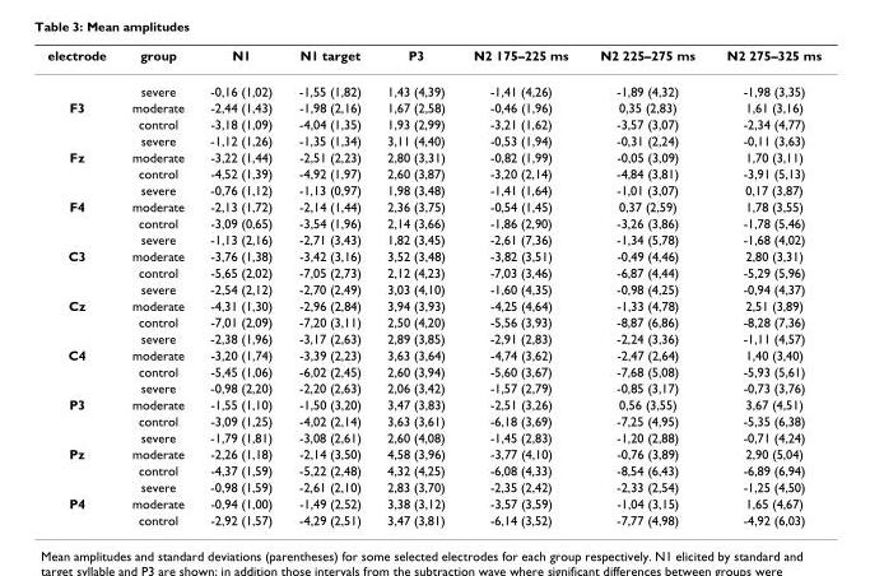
<table><thead><tr><td>electrode</td><td>group</td><td>N1</td><td>N1 target</td><td>P3</td><td>N2 175–225 ms</td><td>N2 225–275 ms</td><td>N2 275–325 ms</td></tr></thead><tbody><tr><td></td><td>severe</td><td>-0,16 (1,02)</td><td>-1,55 (1,82)</td><td>1,43 (4,39)</td><td>-1,41 (4,26)</td><td>-1,89 (4,32)</td><td>-1,98 (3,35)</td></tr><tr><td rowspan="3">F3</td><td>moderate</td><td>-2,44 (1,43)</td><td>-1,98 (2,16)</td><td>1,67 (2,58)</td><td>-0,46 (1,96)</td><td>0,35 (2,83)</td><td>1,61 (3,16)</td></tr><tr><td>control</td><td>-3,18 (1,09)</td><td>-4,04 (1,35)</td><td>1,93 (2,99)</td><td>-3,21 (1,62)</td><td>-3,57 (3,07)</td><td>-2,34 (4,77)</td></tr><tr><td>severe</td><td>-1,12 (1,26)</td><td>-1,35 (1,34)</td><td>3,11 (4,40)</td><td>-0,53 (1,94)</td><td>-0,31 (2,24)</td><td>-0,11 (3,63)</td></tr><tr><td rowspan="3">Fz</td><td>moderate</td><td>-3,22 (1,44)</td><td>-2,51 (2,23)</td><td>2,80 (3,31)</td><td>-0,82 (1,99)</td><td>-0,05 (3,09)</td><td>1,70 (3,11)</td></tr><tr><td>control</td><td>-4,52 (1,39)</td><td>-4,92 (1,97)</td><td>2,60 (3,87)</td><td>-3,20 (2,14)</td><td>-4,84 (3,81)</td><td>-3,91 (5,13)</td></tr><tr><td>severe</td><td>-0,76 (1,12)</td><td>-1,13 (0,97)</td><td>1,98 (3,48)</td><td>-1,41 (1,64)</td><td>-1,01 (3,07)</td><td>0,17 (3,87)</td></tr><tr><td rowspan="3">F4</td><td>moderate</td><td>-2,13 (1,72)</td><td>-2,14 (1,44)</td><td>2,36 (3,75)</td><td>-0,54 (1,45)</td><td>0,37 (2,59)</td><td>1,78 (3,55)</td></tr><tr><td>control</td><td>-3,09 (0,65)</td><td>-3,54 (1,96)</td><td>2,14 (3,66)</td><td>-1,86 (2,90)</td><td>-3,26 (3,86)</td><td>-1,78 (5,46)</td></tr><tr><td>severe</td><td>-1,13 (2,16)</td><td>-2,71 (3,43)</td><td>1,82 (3,45)</td><td>-2,61 (7,36)</td><td>-1,34 (5,78)</td><td>-1,68 (4,02)</td></tr><tr><td rowspan="3">C3</td><td>moderate</td><td>-3,76 (1,38)</td><td>-3,42 (3,16)</td><td>3,52 (3,48)</td><td>-3,82 (3,51)</td><td>-0,49 (4,46)</td><td>2,80 (3,31)</td></tr><tr><td>control</td><td>-5,65 (2,02)</td><td>-7,05 (2,73)</td><td>2,12 (4,23)</td><td>-7,03 (3,46)</td><td>-6,87 (4,44)</td><td>-5,29 (5,96)</td></tr><tr><td>severe</td><td>-2,54 (2,12)</td><td>-2,70 (2,49)</td><td>3,03 (4,10)</td><td>-1,60 (4,35)</td><td>-0,98 (4,25)</td><td>-0,94 (4,37)</td></tr><tr><td rowspan="3">Cz</td><td>moderate</td><td>-4,31 (1,30)</td><td>-2,96 (2,84)</td><td>3,94 (3,93)</td><td>-4,25 (4,64)</td><td>-1,33 (4,78)</td><td>2,51 (3,89)</td></tr><tr><td>control</td><td>-7,01 (2,09)</td><td>-7,20 (3,11)</td><td>2,50 (4,20)</td><td>-5,56 (3,93)</td><td>-8,87 (6,86)</td><td>-8,28 (7,36)</td></tr><tr><td>severe</td><td>-2,38 (1,96)</td><td>-3,17 (2,63)</td><td>2,89 (3,85)</td><td>-2,91 (2,83)</td><td>-2,24 (3,36)</td><td>-1,11 (4,57)</td></tr><tr><td rowspan="3">C4</td><td>moderate</td><td>-3,20 (1,74)</td><td>-3,39 (2,23)</td><td>3,63 (3,64)</td><td>-4,74 (3,62)</td><td>-2,47 (2,64)</td><td>1,40 (3,40)</td></tr><tr><td>control</td><td>-5,45 (1,06)</td><td>-6,02 (2,45)</td><td>2,60 (3,94)</td><td>-5,60 (3,67)</td><td>-7,68 (5,08)</td><td>-5,93 (5,61)</td></tr><tr><td>severe</td><td>-0,98 (2,20)</td><td>-2,20 (2,63)</td><td>2,06 (3,42)</td><td>-1,57 (2,79)</td><td>-0,85 (3,17)</td><td>-0,73 (3,76)</td></tr><tr><td rowspan="3">P3</td><td>moderate</td><td>-1,55 (1,10)</td><td>-1,50 (3,20)</td><td>3,47 (3,83)</td><td>-2,51 (3,26)</td><td>0,56 (3,55)</td><td>3,67 (4,51)</td></tr><tr><td>control</td><td>-3,09 (1,25)</td><td>-4,02 (2,14)</td><td>3,63 (3,61)</td><td>-6,18 (3,69)</td><td>-7,25 (4,95)</td><td>-5,35 (6,38)</td></tr><tr><td>severe</td><td>-1,79 (1,81)</td><td>-3,08 (2,61)</td><td>2,60 (4,08)</td><td>-1,45 (2,83)</td><td>-1,20 (2,88)</td><td>-0,71 (4,24)</td></tr><tr><td rowspan="3">Pz</td><td>moderate</td><td>-2,26 (1,18)</td><td>-2,14 (3,50)</td><td>4,58 (3,96)</td><td>-3,77 (4,10)</td><td>-0,76 (3,89)</td><td>2,90 (5,04)</td></tr><tr><td>control</td><td>-4,37 (1,59)</td><td>-5,22 (2,48)</td><td>4,32 (4,25)</td><td>-6,08 (4,33)</td><td>-8,54 (6,43)</td><td>-6,89 (6,94)</td></tr><tr><td>severe</td><td>-0,98 (1,59)</td><td>-2,61 (2,10)</td><td>2,83 (3,70)</td><td>-2,35 (2,42)</td><td>-2,33 (2,54)</td><td>-1,25 (4,50)</td></tr><tr><td rowspan="2">P4</td><td>moderate</td><td>-0,94 (1,00)</td><td>-1,49 (2,52)</td><td>3,38 (3,12)</td><td>-3,57 (3,59)</td><td>-1,04 (3,15)</td><td>1,65 (4,67)</td></tr><tr><td>control</td><td>-2,92 (1,57)</td><td>-4,29 (2,51)</td><td>3,47 (3,81)</td><td>-6,14 (3,52)</td><td>-7,77 (4,98)</td><td>-4,92 (6,03)</td></tr></tbody></table>